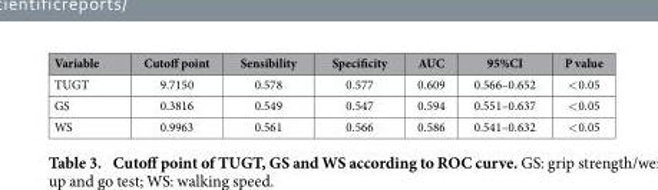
<table><thead><tr><td>Variable</td><td>Cutoff point</td><td>Sensibility</td><td>Specificity</td><td>AUC</td><td>95%CI</td><td>P value</td></tr></thead><tbody><tr><td>TUGT</td><td>9.7150</td><td>0.578</td><td>0.577</td><td>0.609</td><td>0.566–0.652</td><td>&lt; 0.05</td></tr><tr><td>GS</td><td>0.3816</td><td>0.549</td><td>0.547</td><td>0.594</td><td>0.551–0.637</td><td>&lt; 0.05</td></tr><tr><td>WS</td><td>0.9963</td><td>0.561</td><td>0.566</td><td>0.586</td><td>0.541–0.632</td><td>&lt; 0.05</td></tr></tbody></table>